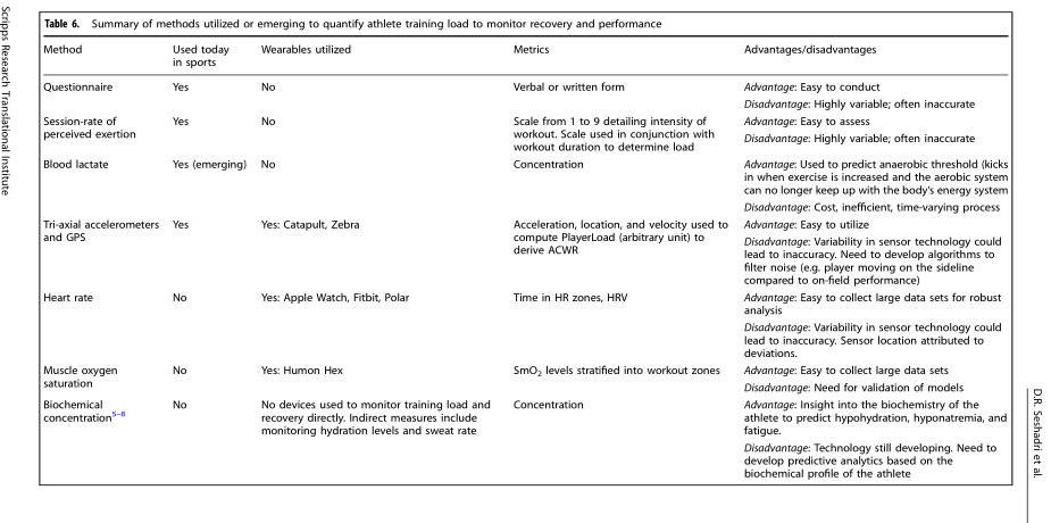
<table><thead><tr><td>Method</td><td>Used today in sports</td><td>Wearables utilized</td><td>Metrics</td><td>Advantages/disadvantages</td></tr></thead><tbody><tr><td rowspan="2">Questionnaire</td><td rowspan="2">Yes</td><td rowspan="2">No</td><td rowspan="2">Verbal or written form</td><td>Advantage: Easy to conduct</td></tr><tr><td>Disadvantage: Highly variable; often inaccurate</td></tr><tr><td rowspan="2">Session-rate of perceived exertion</td><td rowspan="2">Yes</td><td rowspan="2">No</td><td rowspan="2">Scale from 1 to 9 detailing intensity of workout. Scale used in conjunction with workout duration to determine load</td><td>Advantage: Easy to assess</td></tr><tr><td>Disadvantage: Highly variable; often inaccurate</td></tr><tr><td rowspan="2">Blood lactate</td><td rowspan="2">Yes (emerging)</td><td rowspan="2">No</td><td rowspan="2">Concentration</td><td>Advantage: Used to predict anaerobic threshold (kicks in when exercise is increased and the aerobic system can no longer keep up with the body’s energy system</td></tr><tr><td>Disadvantage: Cost, inefficient, time-varying process</td></tr><tr><td rowspan="2">Tri-axial accelerometers and GPS</td><td rowspan="2">Yes</td><td rowspan="2">Yes: Catapult, Zebra</td><td rowspan="2">Acceleration, location, and velocity used to compute PlayerLoad (arbitrary unit) to derive ACWR</td><td>Advantage: Easy to utilize</td></tr><tr><td>Disadvantage: Variability in sensor technology could lead to inaccuracy. Need to develop algorithms to filter noise (e.g. player moving on the sideline compared to on-field performance)</td></tr><tr><td rowspan="2">Heart rate</td><td rowspan="2">No</td><td rowspan="2">Yes: Apple Watch, Fitbit, Polar</td><td rowspan="2">Time in HR zones, HRV</td><td>Advantage: Easy to collect large data sets for robust analysis</td></tr><tr><td>Disadvantage: Variability in sensor technology could lead to inaccuracy. Sensor location attributed to deviations.</td></tr><tr><td rowspan="2">Muscle oxygen saturation</td><td rowspan="2">No</td><td rowspan="2">Yes: Humon Hex</td><td rowspan="2">SmO<sub>2</sub> levels stratified into workout zones</td><td>Advantage: Easy to collect large data sets</td></tr><tr><td>Disadvantage: Need for validation of models</td></tr><tr><td rowspan="2">Biochemical concentration<sup>5–8</sup></td><td rowspan="2">No</td><td rowspan="2">No devices used to monitor training load and recovery directly. Indirect measures include monitoring hydration levels and sweat rate</td><td rowspan="2">Concentration</td><td>Advantage: Insight into the biochemistry of the athlete to predict hypohydration, hyponatremia, and fatigue.</td></tr><tr><td>Disadvantage: Technology still developing. Need to develop predictive analytics based on the biochemical profile of the athlete</td></tr></tbody></table>